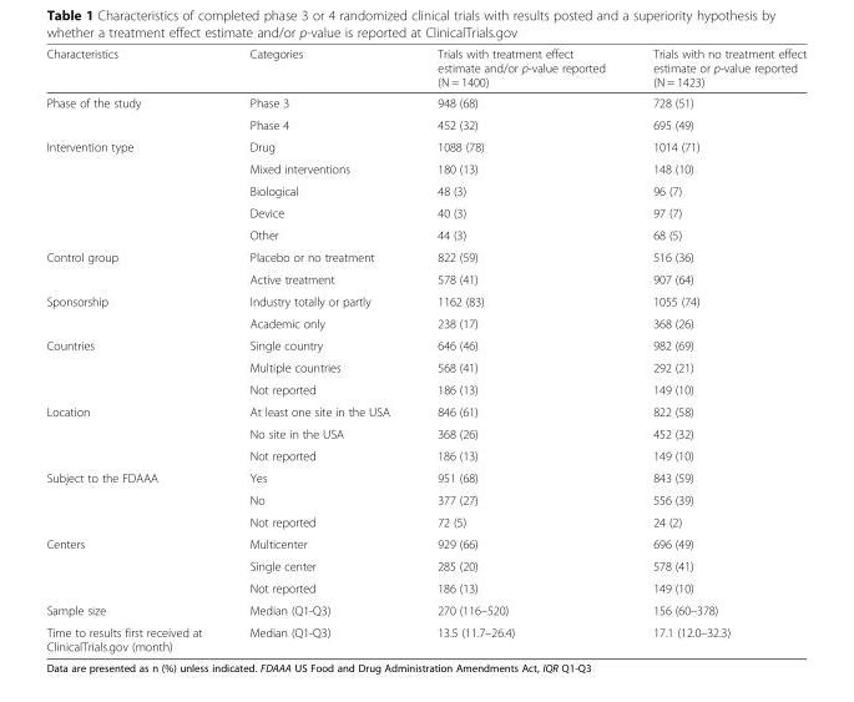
<table><thead><tr><td>Characteristics</td><td>Categories</td><td>Trials with treatment effect estimate and/or p-value reported (N = 1400)</td><td>Trials with no treatment effect estimate or p-value reported (N = 1423)</td></tr></thead><tbody><tr><td rowspan="2">Phase of the study</td><td>Phase 3</td><td>948 (68)</td><td>728 (51)</td></tr><tr><td>Phase 4</td><td>452 (32)</td><td>695 (49)</td></tr><tr><td rowspan="5">Intervention type</td><td>Drug</td><td>1088 (78)</td><td>1014 (71)</td></tr><tr><td>Mixed interventions</td><td>180 (13)</td><td>148 (10)</td></tr><tr><td>Biological</td><td>48 (3)</td><td>96 (7)</td></tr><tr><td>Device</td><td>40 (3)</td><td>97 (7)</td></tr><tr><td>Other</td><td>44 (3)</td><td>68 (5)</td></tr><tr><td rowspan="2">Control group</td><td>Placebo or no treatment</td><td>822 (59)</td><td>516 (36)</td></tr><tr><td>Active treatment</td><td>578 (41)</td><td>907 (64)</td></tr><tr><td rowspan="2">Sponsorship</td><td>Industry totally or partly</td><td>1162 (83)</td><td>1055 (74)</td></tr><tr><td>Academic only</td><td>238 (17)</td><td>368 (26)</td></tr><tr><td rowspan="3">Countries</td><td>Single country</td><td>646 (46)</td><td>982 (69)</td></tr><tr><td>Multiple countries</td><td>568 (41)</td><td>292 (21)</td></tr><tr><td>Not reported</td><td>186 (13)</td><td>149 (10)</td></tr><tr><td rowspan="3">Location</td><td>At least one site in the USA</td><td>846 (61)</td><td>822 (58)</td></tr><tr><td>No site in the USA</td><td>368 (26)</td><td>452 (32)</td></tr><tr><td>Not reported</td><td>186 (13)</td><td>149 (10)</td></tr><tr><td rowspan="3">Subject to the FDAAA</td><td>Yes</td><td>951 (68)</td><td>843 (59)</td></tr><tr><td>No</td><td>377 (27)</td><td>556 (39)</td></tr><tr><td>Not reported</td><td>72 (5)</td><td>24 (2)</td></tr><tr><td rowspan="3">Centers</td><td>Multicenter</td><td>929 (66)</td><td>696 (49)</td></tr><tr><td>Single center</td><td>285 (20)</td><td>578 (41)</td></tr><tr><td>Not reported</td><td>186 (13)</td><td>149 (10)</td></tr><tr><td>Sample size</td><td>Median (Q1-Q3)</td><td>270 (116–520)</td><td>156 (60–378)</td></tr><tr><td>Time to results first received at ClinicalTrials.gov (month)</td><td>Median (Q1-Q3)</td><td>13.5 (11.7–26.4)</td><td>17.1 (12.0–32.3)</td></tr></tbody></table>